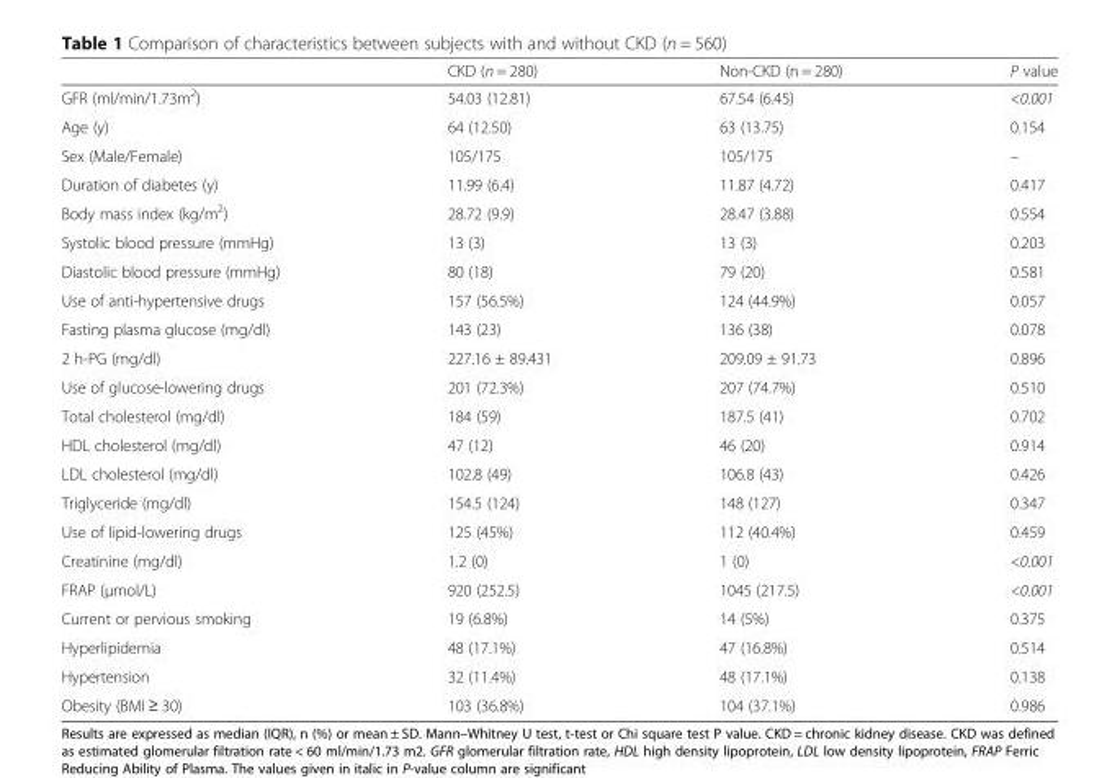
<table><thead><tr><td></td><td>CKD (n = 280)</td><td>Non-CKD (n = 280)</td><td>P value</td></tr></thead><tbody><tr><td>GFR (ml/min/1.73m<sup>2</sup>)</td><td>54.03 (12.81)</td><td>67.54 (6.45)</td><td>&lt;0.001</td></tr><tr><td>Age (y)</td><td>64 (12.50)</td><td>63 (13.75)</td><td>0.154</td></tr><tr><td>Sex (Male/Female)</td><td>105/175</td><td>105/175</td><td>–</td></tr><tr><td>Duration of diabetes (y)</td><td>11.99 (6.4)</td><td>11.87 (4.72)</td><td>0.417</td></tr><tr><td>Body mass index (kg/m<sup>2</sup>)</td><td>28.72 (9.9)</td><td>28.47 (3.88)</td><td>0.554</td></tr><tr><td>Systolic blood pressure (mmHg)</td><td>13 (3)</td><td>13 (3)</td><td>0.203</td></tr><tr><td>Diastolic blood pressure (mmHg)</td><td>80 (18)</td><td>79 (20)</td><td>0.581</td></tr><tr><td>Use of anti-hypertensive drugs</td><td>157 (56.5%)</td><td>124 (44.9%)</td><td>0.057</td></tr><tr><td>Fasting plasma glucose (mg/dl)</td><td>143 (23)</td><td>136 (38)</td><td>0.078</td></tr><tr><td>2 h-PG (mg/dl)</td><td>227.16 ± 89.431</td><td>209.09 ± 91.73</td><td>0.896</td></tr><tr><td>Use of glucose-lowering drugs</td><td>201 (72.3%)</td><td>207 (74.7%)</td><td>0.510</td></tr><tr><td>Total cholesterol (mg/dl)</td><td>184 (59)</td><td>187.5 (41)</td><td>0.702</td></tr><tr><td>HDL cholesterol (mg/dl)</td><td>47 (12)</td><td>46 (20)</td><td>0.914</td></tr><tr><td>LDL cholesterol (mg/dl)</td><td>102.8 (49)</td><td>106.8 (43)</td><td>0.426</td></tr><tr><td>Triglyceride (mg/dl)</td><td>154.5 (124)</td><td>148 (127)</td><td>0.347</td></tr><tr><td>Use of lipid-lowering drugs</td><td>125 (45%)</td><td>112 (40.4%)</td><td>0.459</td></tr><tr><td>Creatinine (mg/dl)</td><td>1.2 (0)</td><td>1 (0)</td><td>&lt;0.001</td></tr><tr><td>FRAP (μmol/L)</td><td>920 (252.5)</td><td>1045 (217.5)</td><td>&lt;0.001</td></tr><tr><td>Current or pervious smoking</td><td>19 (6.8%)</td><td>14 (5%)</td><td>0.375</td></tr><tr><td>Hyperlipidemia</td><td>48 (17.1%)</td><td>47 (16.8%)</td><td>0.514</td></tr><tr><td>Hypertension</td><td>32 (11.4%)</td><td>48 (17.1%)</td><td>0.138</td></tr><tr><td>Obesity (BMI ≥ 30)</td><td>103 (36.8%)</td><td>104 (37.1%)</td><td>0.986</td></tr></tbody></table>